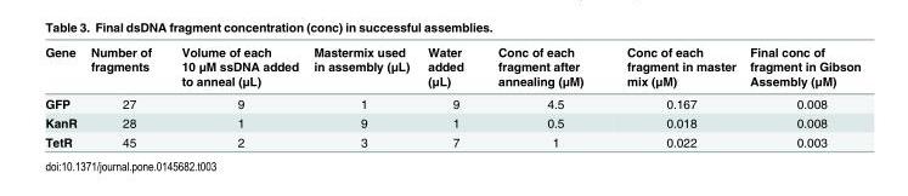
<table><thead><tr><td>Gene</td><td>Number of fragments</td><td>Volume of each 10 μM ssDNA added to anneal (μL)</td><td>Mastermix used in assembly (μL)</td><td>Water added (μL)</td><td>Conc of each fragment after annealing (μM)</td><td>Conc of each fragment in master mix (μM)</td><td>Final conc of fragment in Gibson Assembly (μM)</td></tr></thead><tbody><tr><td>GFP</td><td>27</td><td>9</td><td>1</td><td>9</td><td>4.5</td><td>0.167</td><td>0.008</td></tr><tr><td>KanR</td><td>28</td><td>1</td><td>9</td><td>1</td><td>0.5</td><td>0.018</td><td>0.008</td></tr><tr><td>TetR</td><td>45</td><td>2</td><td>3</td><td>7</td><td>1</td><td>0.022</td><td>0.003</td></tr></tbody></table>